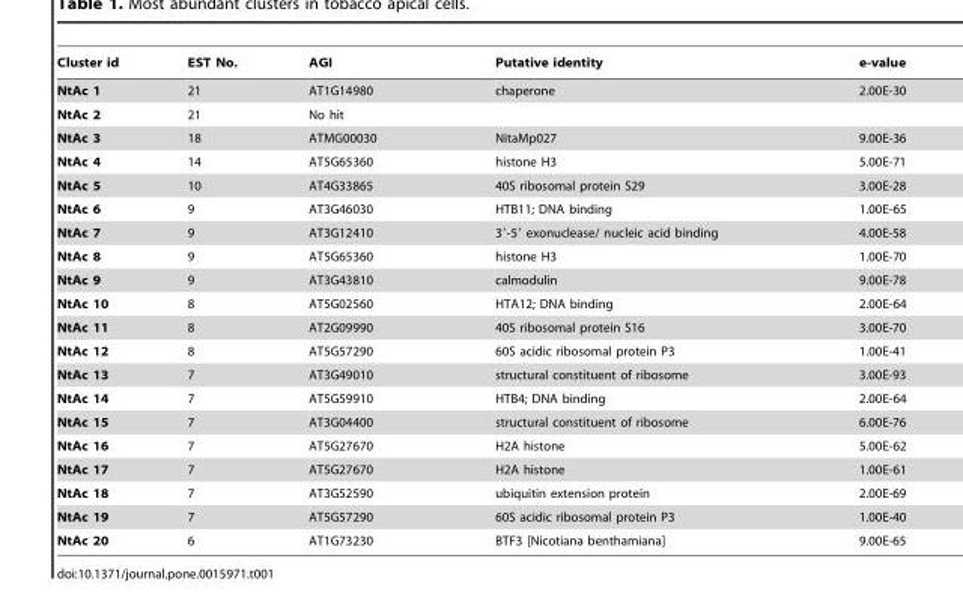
<table><thead><tr><td>Cluster id</td><td>EST No.</td><td>AGI</td><td>Putative identity</td><td>e-value</td></tr></thead><tbody><tr><td>NtAc 1</td><td>21</td><td>AT1G14980</td><td>chaperone</td><td>2.00E-30</td></tr><tr><td>NtAc 2</td><td>21</td><td>No hit</td><td></td><td></td></tr><tr><td>NtAc 3</td><td>18</td><td>ATMG00030</td><td>NitaMp027</td><td>9.00E-36</td></tr><tr><td>NtAc 4</td><td>14</td><td>AT5G65360</td><td>histone H3</td><td>5.00E-71</td></tr><tr><td>NtAc 5</td><td>10</td><td>AT4G33865</td><td>40S ribosomal protein S29</td><td>3.00E-28</td></tr><tr><td>NtAc 6</td><td>9</td><td>AT3G46030</td><td>HTB11; DNA binding</td><td>1.00E-65</td></tr><tr><td>NtAc 7</td><td>9</td><td>AT3G12410</td><td>3′-5′ exonuclease/ nucleic acid binding</td><td>4.00E-58</td></tr><tr><td>NtAc 8</td><td>9</td><td>AT5G65360</td><td>histone H3</td><td>1.00E-70</td></tr><tr><td>NtAc 9</td><td>9</td><td>AT3G43810</td><td>calmodulin</td><td>9.00E-78</td></tr><tr><td>NtAc 10</td><td>8</td><td>AT5G02560</td><td>HTA12; DNA binding</td><td>2.00E-64</td></tr><tr><td>NtAc 11</td><td>8</td><td>AT2G09990</td><td>40S ribosomal protein S16</td><td>3.00E-70</td></tr><tr><td>NtAc 12</td><td>8</td><td>AT5G57290</td><td>60S acidic ribosomal protein P3</td><td>1.00E-41</td></tr><tr><td>NtAc 13</td><td>7</td><td>AT3G49010</td><td>structural constituent of ribosome</td><td>3.00E-93</td></tr><tr><td>NtAc 14</td><td>7</td><td>AT5G59910</td><td>HTB4; DNA binding</td><td>2.00E-64</td></tr><tr><td>NtAc 15</td><td>7</td><td>AT3G04400</td><td>structural constituent of ribosome</td><td>6.00E-76</td></tr><tr><td>NtAc 16</td><td>7</td><td>AT5G27670</td><td>H2A histone</td><td>5.00E-62</td></tr><tr><td>NtAc 17</td><td>7</td><td>AT5G27670</td><td>H2A histone</td><td>1.00E-61</td></tr><tr><td>NtAc 18</td><td>7</td><td>AT3G52590</td><td>ubiquitin extension protein</td><td>2.00E-69</td></tr><tr><td>NtAc 19</td><td>7</td><td>AT5G57290</td><td>60S acidic ribosomal protein P3</td><td>1.00E-40</td></tr><tr><td>NtAc 20</td><td>6</td><td>AT1G73230</td><td>BTF3 [Nicotiana benthamiana]</td><td>9.00E-65</td></tr></tbody></table>